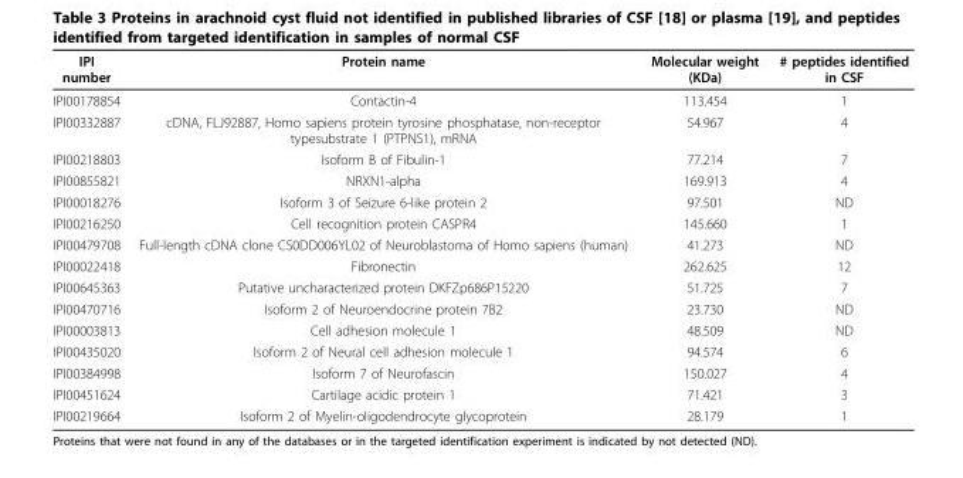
<table><thead><tr><td>IPI number</td><td>Protein name</td><td>Molecular weight (KDa)</td><td># peptides identified in CSF</td></tr></thead><tbody><tr><td>IPI00178854</td><td>Contactin-4</td><td>113.454</td><td>1</td></tr><tr><td>IPI00332887</td><td>cDNA, FLJ92887, Homo sapiens protein tyrosine phosphatase, non-receptor typesubstrate 1 (PTPNS1), mRNA</td><td>54.967</td><td>4</td></tr><tr><td>IPI00218803</td><td>Isoform B of Fibulin-1</td><td>77.214</td><td>7</td></tr><tr><td>IPI00855821</td><td>NRXN1-alpha</td><td>169.913</td><td>4</td></tr><tr><td>IPI00018276</td><td>Isoform 3 of Seizure 6-like protein 2</td><td>97.501</td><td>ND</td></tr><tr><td>IPI00216250</td><td>Cell recognition protein CASPR4</td><td>145.660</td><td>1</td></tr><tr><td>IPI00479708</td><td>Full-length cDNA clone CS0DD006YL02 of Neuroblastoma of Homo sapiens (human)</td><td>41.273</td><td>ND</td></tr><tr><td>IPI00022418</td><td>Fibronectin</td><td>262.625</td><td>12</td></tr><tr><td>IPI00645363</td><td>Putative uncharacterized protein DKFZp686P15220</td><td>51.725</td><td>7</td></tr><tr><td>IPI00470716</td><td>Isoform 2 of Neuroendocrine protein 7B2</td><td>23.730</td><td>ND</td></tr><tr><td>IPI00003813</td><td>Cell adhesion molecule 1</td><td>48.509</td><td>ND</td></tr><tr><td>IPI00435020</td><td>Isoform 2 of Neural cell adhesion molecule 1</td><td>94.574</td><td>6</td></tr><tr><td>IPI00384998</td><td>Isoform 7 of Neurofascin</td><td>150.027</td><td>4</td></tr><tr><td>IPI00451624</td><td>Cartilage acidic protein 1</td><td>71.421</td><td>3</td></tr><tr><td>IPI00219664</td><td>Isoform 2 of Myelin-oligodendrocyte glycoprotein</td><td>28.179</td><td>1</td></tr></tbody></table>